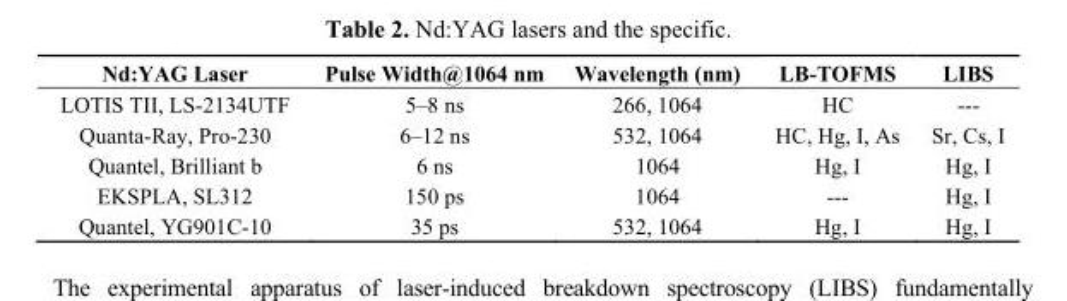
<table><thead><tr><td>Nd:YAG Laser</td><td>Pulse Width@1064 nm</td><td>Wavelength (nm)</td><td>LB-TOFMS</td><td>LIBS</td></tr></thead><tbody><tr><td>LOTIS TII, LS-2134UTF</td><td>5–8 ns</td><td>266, 1064</td><td>HC</td><td>---</td></tr><tr><td>Quanta-Ray, Pro-230</td><td>6–12 ns</td><td>532, 1064</td><td>HC, Hg, I, As</td><td>Sr, Cs, I</td></tr><tr><td>Quantel, Brilliant b</td><td>6 ns</td><td>1064</td><td>Hg, I</td><td>Hg, I</td></tr><tr><td>EKSPLA, SL312</td><td>150 ps</td><td>1064</td><td>---</td><td>Hg, I</td></tr><tr><td>Quantel, YG901C-10</td><td>35 ps</td><td>532, 1064</td><td>Hg, I</td><td>Hg, I</td></tr></tbody></table>